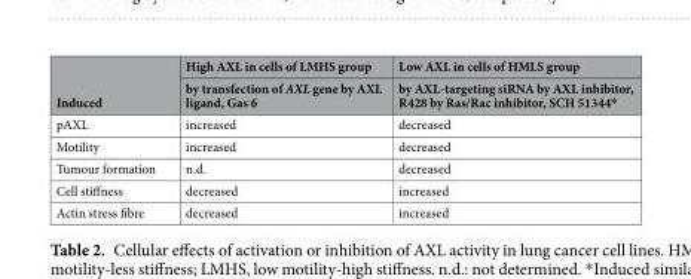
<table><thead><tr><td rowspan="2">Induced</td><td rowspan="2">High AXL in cells of LMHS group by transfection of AXL gene by AXL ligand, Gas 6</td><td rowspan="2">Low AXL in cells of HMLS group by AXL-targeting siRNA by AXL inhibitor, R428 by Ras/Rac inhibitor, SCH 51344*</td></tr><tr></tr></thead><tbody><tr><td>pAXL</td><td>increased</td><td>decreased</td></tr><tr><td>Motility</td><td>increased</td><td>decreased</td></tr><tr><td>Tumour formation</td><td>n.d.</td><td>decreased</td></tr><tr><td>Cell stiffness</td><td>decreased</td><td>increased</td></tr><tr><td>Actin stress fibre</td><td>decreased</td><td>increased</td></tr></tbody></table>